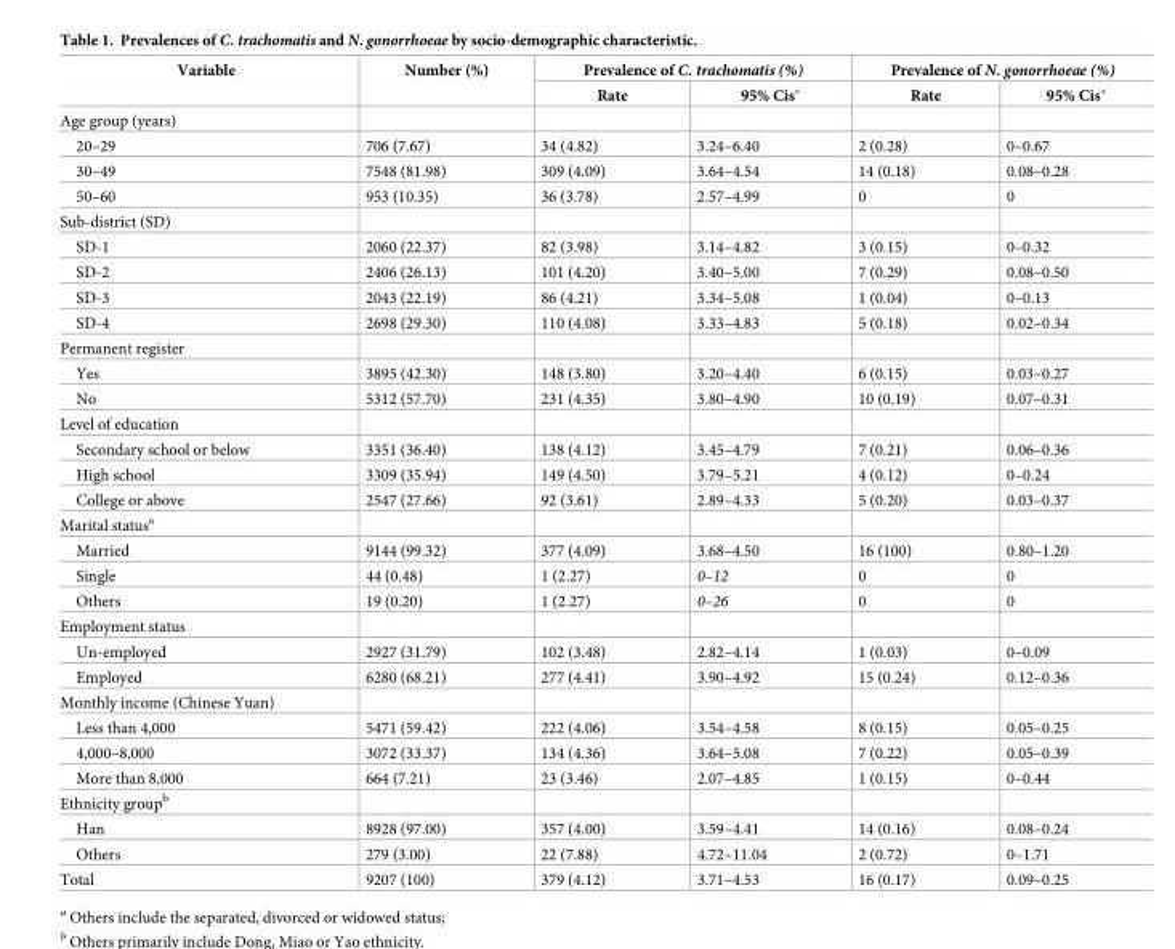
<table><thead><tr><td rowspan="2">Variable</td><td rowspan="2">Number (%)</td><td colspan="2">Prevalence of C. trachomatis (%)</td><td colspan="2">Prevalence of N. gonorrhoeae (%)</td></tr><tr><td>Rate</td><td>95% Cis*</td><td>Rate</td><td>95% Cis*</td></tr></thead><tbody><tr><td colspan="6">Age group (years)</td></tr><tr><td>20–29</td><td>706 (7.67)</td><td>34 (4.82)</td><td>3.24–6.40</td><td>2 (0.28)</td><td>0–0.67</td></tr><tr><td>30–49</td><td>7548 (81.98)</td><td>309 (4.09)</td><td>3.64–4.54</td><td>14 (0.18)</td><td>0.08–0.28</td></tr><tr><td>50–60</td><td>953 (10.35)</td><td>36 (3.78)</td><td>2.57–4.99</td><td>0</td><td>0</td></tr><tr><td colspan="6">Sub-district (SD)</td></tr><tr><td>SD-1</td><td>2060 (22.37)</td><td>82 (3.98)</td><td>3.14–4.82</td><td>3 (0.15)</td><td>0–0.32</td></tr><tr><td>SD-2</td><td>2406 (26.13)</td><td>101 (4.20)</td><td>3.40–5.00</td><td>7 (0.29)</td><td>0.08–0.50</td></tr><tr><td>SD-3</td><td>2043 (22.19)</td><td>86 (4.21)</td><td>3.34–5.08</td><td>1 (0.04)</td><td>0–0.13</td></tr><tr><td>SD-4</td><td>2698 (29.30)</td><td>110 (4.08)</td><td>3.33–4.83</td><td>5 (0.18)</td><td>0.02–0.34</td></tr><tr><td colspan="6">Permanent register</td></tr><tr><td>Yes</td><td>3895 (42.30)</td><td>148 (3.80)</td><td>3.20–4.40</td><td>6 (0.15)</td><td>0.03–0.27</td></tr><tr><td>No</td><td>5312 (57.70)</td><td>231 (4.35)</td><td>3.80–4.90</td><td>10 (0.19)</td><td>0.07–0.31</td></tr><tr><td colspan="6">Level of education</td></tr><tr><td>Secondary school or below</td><td>3351 (36.40)</td><td>138 (4.12)</td><td>3.45–4.79</td><td>7 (0.21)</td><td>0.06–0.36</td></tr><tr><td>High school</td><td>3309 (35.94)</td><td>149 (4.50)</td><td>3.79–5.21</td><td>4 (0.12)</td><td>0–0.24</td></tr><tr><td>College or above</td><td>2547 (27.66)</td><td>92 (3.61)</td><td>2.89–4.33</td><td>5 (0.20)</td><td>0.03–0.37</td></tr><tr><td colspan="6">Marital status<sup>a</sup></td></tr><tr><td>Married</td><td>9144 (99.32)</td><td>377 (4.09)</td><td>3.68–4.50</td><td>16 (100)</td><td>0.80–1.20</td></tr><tr><td>Single</td><td>44 (0.48)</td><td>1 (2.27)</td><td>0–12</td><td>0</td><td>0</td></tr><tr><td>Others</td><td>19 (0.20)</td><td>1 (2.27)</td><td>0–26</td><td>0</td><td>0</td></tr><tr><td colspan="6">Employment status</td></tr><tr><td>Un-employed</td><td>2927 (31.79)</td><td>102 (3.48)</td><td>2.82–4.14</td><td>1 (0.03)</td><td>0–0.09</td></tr><tr><td>Employed</td><td>6280 (68.21)</td><td>277 (4.41)</td><td>3.90–4.92</td><td>15 (0.24)</td><td>0.12–0.36</td></tr><tr><td colspan="6">Monthly income (Chinese Yuan)</td></tr><tr><td>Less than 4,000</td><td>5471 (59.42)</td><td>222 (4.06)</td><td>3.54–4.58</td><td>8 (0.15)</td><td>0.05–0.25</td></tr><tr><td>4,000–8,000</td><td>3072 (33.37)</td><td>134 (4.36)</td><td>3.64–5.08</td><td>7 (0.22)</td><td>0.05–0.39</td></tr><tr><td>More than 8,000</td><td>664 (7.21)</td><td>23 (3.46)</td><td>2.07–4.85</td><td>1 (0.15)</td><td>0–0.44</td></tr><tr><td colspan="6">Ethnicity group<sup>b</sup></td></tr><tr><td>Han</td><td>8928 (97.00)</td><td>357 (4.00)</td><td>3.59–4.41</td><td>14 (0.16)</td><td>0.08–0.24</td></tr><tr><td>Others</td><td>279 (3.00)</td><td>22 (7.88)</td><td>4.72–11.04</td><td>2 (0.72)</td><td>0–1.71</td></tr><tr><td>Total</td><td>9207 (100)</td><td>379 (4.12)</td><td>3.71–4.53</td><td>16 (0.17)</td><td>0.09–0.25</td></tr></tbody></table>